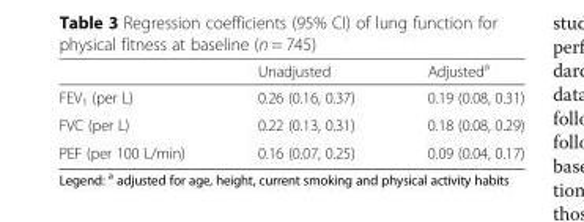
<table><thead><tr><td></td><td>Unadjusted</td><td>Adjusted<sup>a</sup></td></tr></thead><tbody><tr><td>FEV<sub>1</sub> (per L)</td><td>0.26 (0.16, 0.37)</td><td>0.19 (0.08, 0.31)</td></tr><tr><td>FVC (per L)</td><td>0.22 (0.13, 0.31)</td><td>0.18 (0.08, 0.29)</td></tr><tr><td>PEF (per 100 L/min)</td><td>0.16 (0.07, 0.25)</td><td>0.09 (0.04, 0.17)</td></tr></tbody></table>